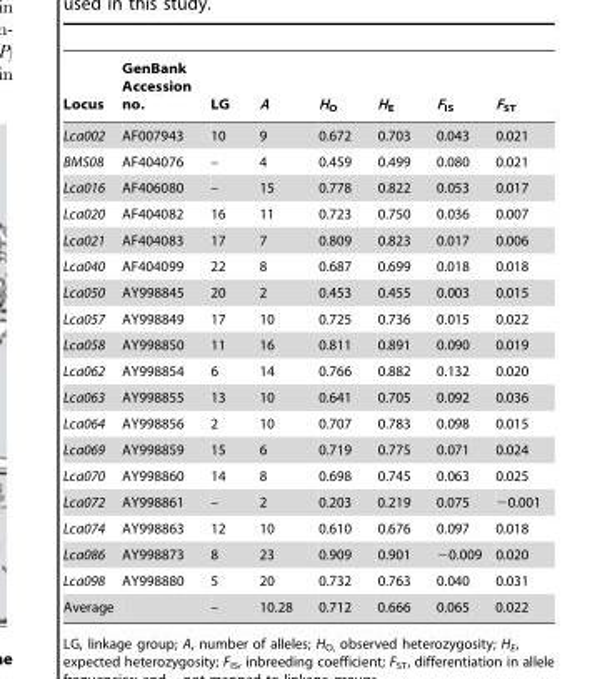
<table><thead><tr><td>Locus</td><td>GenBank Accession no.</td><td>LG</td><td>A</td><td>H<sub>O</sub></td><td>H<sub>E</sub></td><td>F<sub>IS</sub></td><td>F<sub>ST</sub></td></tr></thead><tbody><tr><td>Lca002</td><td>AF007943</td><td>10</td><td>9</td><td>0.672</td><td>0.703</td><td>0.043</td><td>0.021</td></tr><tr><td>BMS08</td><td>AF404076</td><td>–</td><td>4</td><td>0.459</td><td>0.499</td><td>0.080</td><td>0.021</td></tr><tr><td>Lca016</td><td>AF406080</td><td>–</td><td>15</td><td>0.778</td><td>0.822</td><td>0.053</td><td>0.017</td></tr><tr><td>Lca020</td><td>AF404082</td><td>16</td><td>11</td><td>0.723</td><td>0.750</td><td>0.036</td><td>0.007</td></tr><tr><td>Lca021</td><td>AF404083</td><td>17</td><td>7</td><td>0.809</td><td>0.823</td><td>0.017</td><td>0.006</td></tr><tr><td>Lca040</td><td>AF404099</td><td>22</td><td>8</td><td>0.687</td><td>0.699</td><td>0.018</td><td>0.018</td></tr><tr><td>Lca050</td><td>AY998845</td><td>20</td><td>2</td><td>0.453</td><td>0.455</td><td>0.003</td><td>0.015</td></tr><tr><td>Lca057</td><td>AY998849</td><td>17</td><td>10</td><td>0.725</td><td>0.736</td><td>0.015</td><td>0.022</td></tr><tr><td>Lca058</td><td>AY998850</td><td>11</td><td>16</td><td>0.811</td><td>0.891</td><td>0.090</td><td>0.019</td></tr><tr><td>Lca062</td><td>AY998854</td><td>6</td><td>14</td><td>0.766</td><td>0.882</td><td>0.132</td><td>0.020</td></tr><tr><td>Lca063</td><td>AY998855</td><td>13</td><td>10</td><td>0.641</td><td>0.705</td><td>0.092</td><td>0.036</td></tr><tr><td>Lca064</td><td>AY998856</td><td>2</td><td>10</td><td>0.707</td><td>0.783</td><td>0.098</td><td>0.015</td></tr><tr><td>Lca069</td><td>AY998859</td><td>15</td><td>6</td><td>0.719</td><td>0.775</td><td>0.071</td><td>0.024</td></tr><tr><td>Lca070</td><td>AY998860</td><td>14</td><td>8</td><td>0.698</td><td>0.745</td><td>0.063</td><td>0.025</td></tr><tr><td>Lca072</td><td>AY998861</td><td>–</td><td>2</td><td>0.203</td><td>0.219</td><td>0.075</td><td>−0.001</td></tr><tr><td>Lca074</td><td>AY998863</td><td>12</td><td>10</td><td>0.610</td><td>0.676</td><td>0.097</td><td>0.018</td></tr><tr><td>Lca086</td><td>AY998873</td><td>8</td><td>23</td><td>0.909</td><td>0.901</td><td>−0.009</td><td>0.020</td></tr><tr><td>Lca098</td><td>AY998880</td><td>5</td><td>20</td><td>0.732</td><td>0.763</td><td>0.040</td><td>0.031</td></tr><tr><td>Average</td><td></td><td>–</td><td>10.28</td><td>0.712</td><td>0.666</td><td>0.065</td><td>0.022</td></tr></tbody></table>